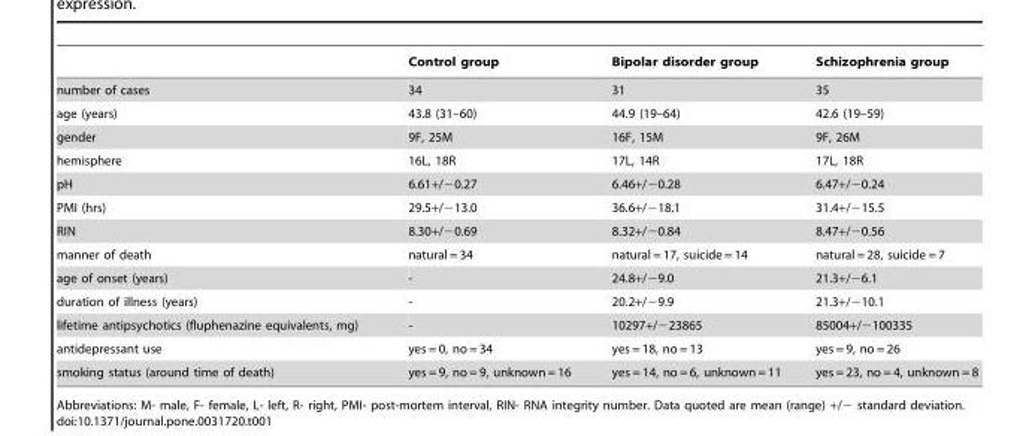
<table><thead><tr><td></td><td>Control group</td><td>Bipolar disorder group</td><td>Schizophrenia group</td></tr></thead><tbody><tr><td>number of cases</td><td>34</td><td>31</td><td>35</td></tr><tr><td>age (years)</td><td>43.8 (31–60)</td><td>44.9 (19–64)</td><td>42.6 (19–59)</td></tr><tr><td>gender</td><td>9F, 25M</td><td>16F, 15M</td><td>9F, 26M</td></tr><tr><td>hemisphere</td><td>16L, 18R</td><td>17L, 14R</td><td>17L, 18R</td></tr><tr><td>pH</td><td>6.61+/−0.27</td><td>6.46+/−0.28</td><td>6.47+/−0.24</td></tr><tr><td>PMI (hrs)</td><td>29.5+/−13.0</td><td>36.6+/−18.1</td><td>31.4+/−15.5</td></tr><tr><td>RIN</td><td>8.30+/−0.69</td><td>8.32+/−0.84</td><td>8.47+/−0.56</td></tr><tr><td>manner of death</td><td>natural = 34</td><td>natural = 17, suicide = 14</td><td>natural = 28, suicide = 7</td></tr><tr><td>age of onset (years)</td><td>-</td><td>24.8+/−9.0</td><td>21.3+/−6.1</td></tr><tr><td>duration of illness (years)</td><td>-</td><td>20.2+/−9.9</td><td>21.3+/−10.1</td></tr><tr><td>lifetime antipsychotics (fluphenazine equivalents, mg)</td><td>-</td><td>10297+/−23865</td><td>85004+/−100335</td></tr><tr><td>antidepressant use</td><td>yes = 0, no = 34</td><td>yes = 18, no = 13</td><td>yes = 9, no = 26</td></tr><tr><td>smoking status (around time of death)</td><td>yes = 9, no = 9, unknown = 16</td><td>yes = 14, no = 6, unknown = 11</td><td>yes = 23, no = 4, unknown = 8</td></tr></tbody></table>